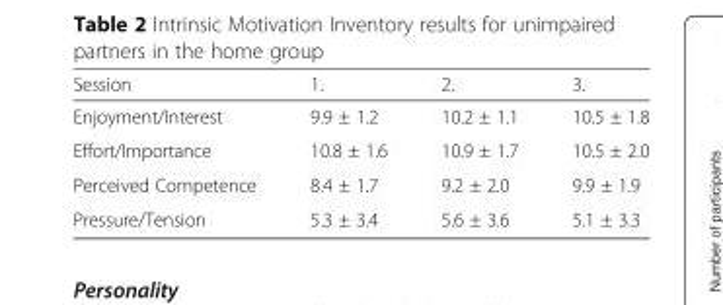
<table><thead><tr><td>Session</td><td>1.</td><td>2.</td><td>3.</td></tr></thead><tbody><tr><td>Enjoyment/Interest</td><td>9.9 ± 1.2</td><td>10.2 ± 1.1</td><td>10.5 ± 1.8</td></tr><tr><td>Effort/Importance</td><td>10.8 ± 1.6</td><td>10.9 ± 1.7</td><td>10.5 ± 2.0</td></tr><tr><td>Perceived Competence</td><td>8.4 ± 1.7</td><td>9.2 ± 2.0</td><td>9.9 ± 1.9</td></tr><tr><td>Pressure/Tension</td><td>5.3 ± 3.4</td><td>5.6 ± 3.6</td><td>5.1 ± 3.3</td></tr></tbody></table>